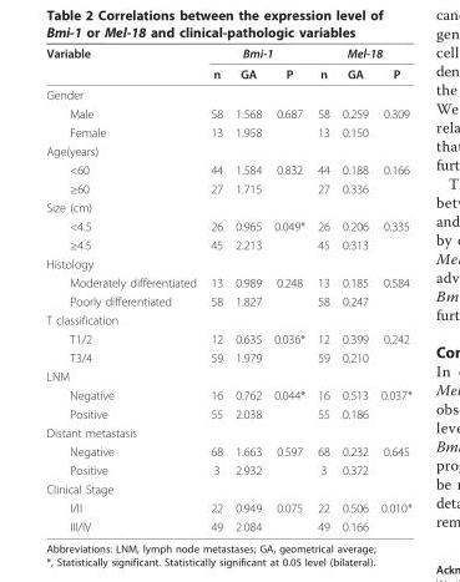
<table><thead><tr><td rowspan="2">Variable</td><td colspan="3">Bmi-1</td><td colspan="3">Mel-18</td></tr><tr><td>n</td><td>GA</td><td>P</td><td>n</td><td>GA</td><td>P</td></tr></thead><tbody><tr><td colspan="7">Gender</td></tr><tr><td>Male</td><td>58</td><td>1.568</td><td>0.687</td><td>58</td><td>0.259</td><td>0.309</td></tr><tr><td>Female</td><td>13</td><td>1.958</td><td></td><td>13</td><td>0.150</td><td></td></tr><tr><td colspan="7">Age(years)</td></tr><tr><td>&lt;60</td><td>44</td><td>1.584</td><td>0.832</td><td>44</td><td>0.188</td><td>0.166</td></tr><tr><td>≥60</td><td>27</td><td>1.715</td><td></td><td>27</td><td>0.336</td><td></td></tr><tr><td colspan="7">Size (cm)</td></tr><tr><td>&lt;4.5</td><td>26</td><td>0.965</td><td>0.049*</td><td>26</td><td>0.206</td><td>0.335</td></tr><tr><td>≥4.5</td><td>45</td><td>2.213</td><td></td><td>45</td><td>0.313</td><td></td></tr><tr><td colspan="7">Histology</td></tr><tr><td>Moderately differentiated</td><td>13</td><td>0.989</td><td>0.248</td><td>13</td><td>0.185</td><td>0.584</td></tr><tr><td>Poorly differentiated</td><td>58</td><td>1.827</td><td></td><td>58</td><td>0.247</td><td></td></tr><tr><td colspan="7">T classification</td></tr><tr><td>T1/2</td><td>12</td><td>0.635</td><td>0.036*</td><td>12</td><td>0.399</td><td>0.242</td></tr><tr><td>T3/4</td><td>59</td><td>1.979</td><td></td><td>59</td><td>0.210</td><td></td></tr><tr><td colspan="7">LNM</td></tr><tr><td>Negative</td><td>16</td><td>0.762</td><td>0.044*</td><td>16</td><td>0.513</td><td>0.037*</td></tr><tr><td>Positive</td><td>55</td><td>2.038</td><td></td><td>55</td><td>0.186</td><td></td></tr><tr><td colspan="7">Distant metastasis</td></tr><tr><td>Negative</td><td>68</td><td>1.663</td><td>0.597</td><td>68</td><td>0.232</td><td>0.645</td></tr><tr><td>Positive</td><td>3</td><td>2.932</td><td></td><td>3</td><td>0.372</td><td></td></tr><tr><td colspan="7">Clinical Stage</td></tr><tr><td>I/II</td><td>22</td><td>0.949</td><td>0.075</td><td>22</td><td>0.506</td><td>0.010*</td></tr><tr><td>III/IV</td><td>49</td><td>2.084</td><td></td><td>49</td><td>0.166</td><td></td></tr></tbody></table>